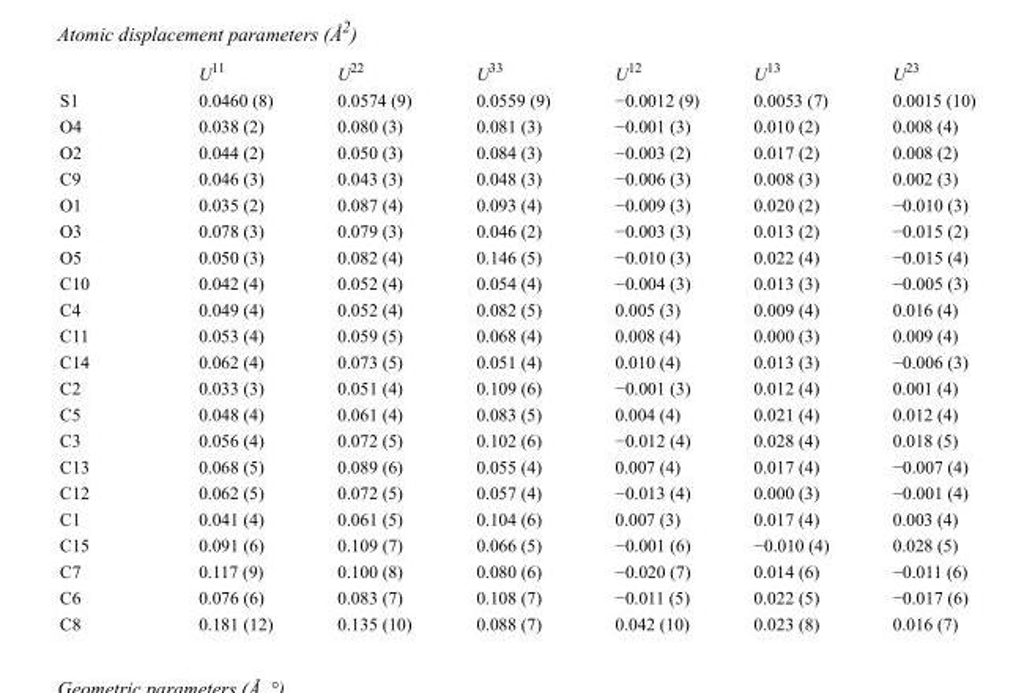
<table><thead><tr><td></td><td>U<sup>11</sup></td><td>U<sup>22</sup></td><td>U<sup>33</sup></td><td>U<sup>12</sup></td><td>U<sup>13</sup></td><td>U<sup>23</sup></td></tr></thead><tbody><tr><td>S1</td><td>0.0460 (8)</td><td>0.0574 (9)</td><td>0.0559 (9)</td><td>−0.0012 (9)</td><td>0.0053 (7)</td><td>0.0015 (10)</td></tr><tr><td>O4</td><td>0.038 (2)</td><td>0.080 (3)</td><td>0.081 (3)</td><td>−0.001 (3)</td><td>0.010 (2)</td><td>0.008 (4)</td></tr><tr><td>O2</td><td>0.044 (2)</td><td>0.050 (3)</td><td>0.084 (3)</td><td>−0.003 (2)</td><td>0.017 (2)</td><td>0.008 (2)</td></tr><tr><td>C9</td><td>0.046 (3)</td><td>0.043 (3)</td><td>0.048 (3)</td><td>−0.006 (3)</td><td>0.008 (3)</td><td>0.002 (3)</td></tr><tr><td>O1</td><td>0.035 (2)</td><td>0.087 (4)</td><td>0.093 (4)</td><td>−0.009 (3)</td><td>0.020 (2)</td><td>−0.010 (3)</td></tr><tr><td>O3</td><td>0.078 (3)</td><td>0.079 (3)</td><td>0.046 (2)</td><td>−0.003 (3)</td><td>0.013 (2)</td><td>−0.015 (2)</td></tr><tr><td>O5</td><td>0.050 (3)</td><td>0.082 (4)</td><td>0.146 (5)</td><td>−0.010 (3)</td><td>0.022 (4)</td><td>−0.015 (4)</td></tr><tr><td>C10</td><td>0.042 (4)</td><td>0.052 (4)</td><td>0.054 (4)</td><td>−0.004 (3)</td><td>0.013 (3)</td><td>−0.005 (3)</td></tr><tr><td>C4</td><td>0.049 (4)</td><td>0.052 (4)</td><td>0.082 (5)</td><td>0.005 (3)</td><td>0.009 (4)</td><td>0.016 (4)</td></tr><tr><td>C11</td><td>0.053 (4)</td><td>0.059 (5)</td><td>0.068 (4)</td><td>0.008 (4)</td><td>0.000 (3)</td><td>0.009 (4)</td></tr><tr><td>C14</td><td>0.062 (4)</td><td>0.073 (5)</td><td>0.051 (4)</td><td>0.010 (4)</td><td>0.013 (3)</td><td>−0.006 (3)</td></tr><tr><td>C2</td><td>0.033 (3)</td><td>0.051 (4)</td><td>0.109 (6)</td><td>−0.001 (3)</td><td>0.012 (4)</td><td>0.001 (4)</td></tr><tr><td>C5</td><td>0.048 (4)</td><td>0.061 (4)</td><td>0.083 (5)</td><td>0.004 (4)</td><td>0.021 (4)</td><td>0.012 (4)</td></tr><tr><td>C3</td><td>0.056 (4)</td><td>0.072 (5)</td><td>0.102 (6)</td><td>−0.012 (4)</td><td>0.028 (4)</td><td>0.018 (5)</td></tr><tr><td>C13</td><td>0.068 (5)</td><td>0.089 (6)</td><td>0.055 (4)</td><td>0.007 (4)</td><td>0.017 (4)</td><td>−0.007 (4)</td></tr><tr><td>C12</td><td>0.062 (5)</td><td>0.072 (5)</td><td>0.057 (4)</td><td>−0.013 (4)</td><td>0.000 (3)</td><td>−0.001 (4)</td></tr><tr><td>C1</td><td>0.041 (4)</td><td>0.061 (5)</td><td>0.104 (6)</td><td>0.007 (3)</td><td>0.017 (4)</td><td>0.003 (4)</td></tr><tr><td>C15</td><td>0.091 (6)</td><td>0.109 (7)</td><td>0.066 (5)</td><td>−0.001 (6)</td><td>−0.010 (4)</td><td>0.028 (5)</td></tr><tr><td>C7</td><td>0.117 (9)</td><td>0.100 (8)</td><td>0.080 (6)</td><td>−0.020 (7)</td><td>0.014 (6)</td><td>−0.011 (6)</td></tr><tr><td>C6</td><td>0.076 (6)</td><td>0.083 (7)</td><td>0.108 (7)</td><td>−0.011 (5)</td><td>0.022 (5)</td><td>−0.017 (6)</td></tr><tr><td>C8</td><td>0.181 (12)</td><td>0.135 (10)</td><td>0.088 (7)</td><td>0.042 (10)</td><td>0.023 (8)</td><td>0.016 (7)</td></tr></tbody></table>